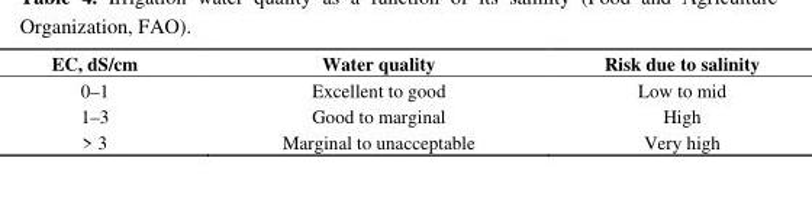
<table><thead><tr><td>EC, dS/cm</td><td>Water quality</td><td>Risk due to salinity</td></tr></thead><tbody><tr><td>0–1</td><td>Excellent to good</td><td>Low to mid</td></tr><tr><td>1–3</td><td>Good to marginal</td><td>High</td></tr><tr><td>&gt; 3</td><td>Marginal to unacceptable</td><td>Very high</td></tr></tbody></table>